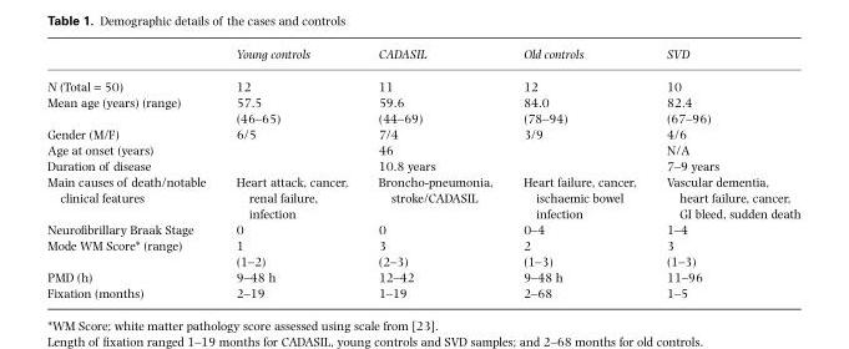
<table><thead><tr><td></td><td>Young controls</td><td>CADASIL</td><td>Old controls</td><td>SVD</td></tr></thead><tbody><tr><td>N (Total = 50)</td><td>12</td><td>11</td><td>12</td><td>10</td></tr><tr><td rowspan="2">Mean age (years) (range)</td><td>57.5</td><td>59.6</td><td>84.0</td><td>82.4</td></tr><tr><td>(46–65)</td><td>(44–69)</td><td>(78–94)</td><td>(67–96)</td></tr><tr><td>Gender (M/F)</td><td>6/5</td><td>7/4</td><td>3/9</td><td>4/6</td></tr><tr><td>Age at onset (years)</td><td></td><td>46</td><td></td><td>N/A</td></tr><tr><td>Duration of disease</td><td></td><td>10.8 years</td><td></td><td>7–9 years</td></tr><tr><td>Main causes of death/notable clinical features</td><td>Heart attack, cancer, renal failure, infection</td><td>Broncho-pneumonia, stroke/CADASIL</td><td>Heart failure, cancer, ischaemic bowel infection</td><td>Vascular dementia, heart failure, cancer, GI bleed, sudden death</td></tr><tr><td>Neurofibrillary Braak Stage</td><td>0</td><td>0</td><td>0–4</td><td>1–4</td></tr><tr><td rowspan="2">Mode WM Score* (range)</td><td>1</td><td>3</td><td>2</td><td>3</td></tr><tr><td>(1–2)</td><td>(2–3)</td><td>(1–3)</td><td>(1–3)</td></tr><tr><td>PMD (h)</td><td>9–48 h</td><td>12–42</td><td>9–48 h</td><td>11–96</td></tr><tr><td>Fixation (months)</td><td>2–19</td><td>1–19</td><td>2–68</td><td>1–5</td></tr></tbody></table>